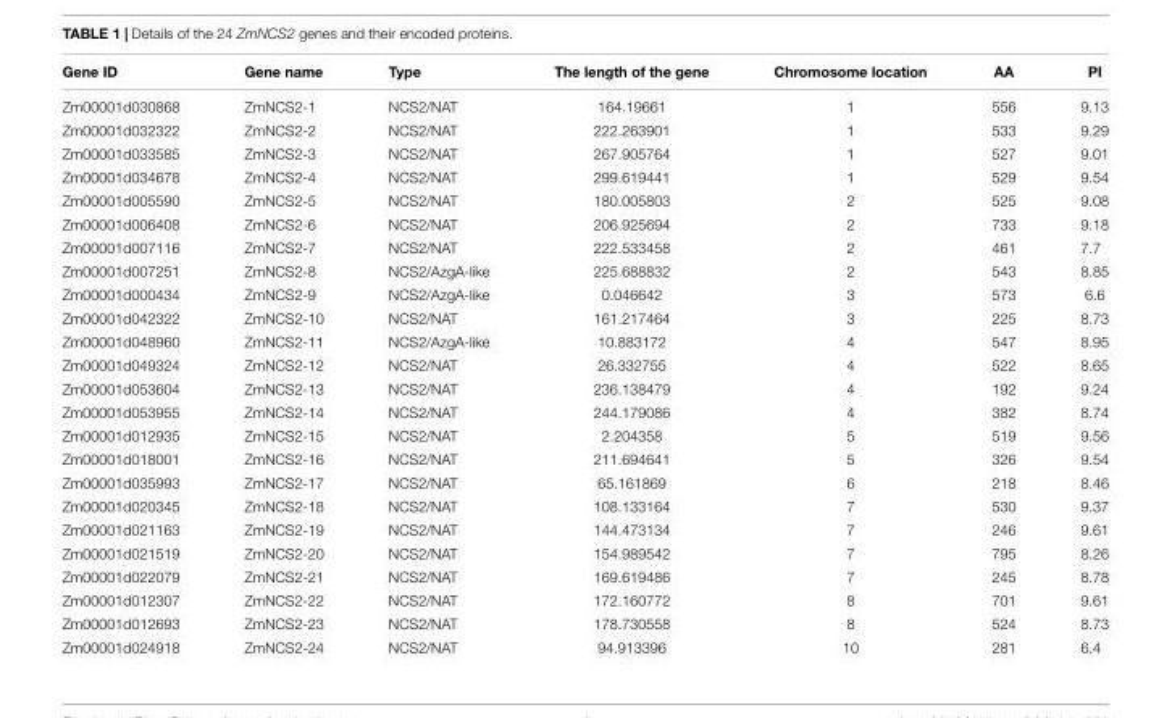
<table><thead><tr><td>Gene ID</td><td>Gene name</td><td>Type</td><td>The length of the gene</td><td>Chromosome location</td><td>AA</td><td>PI</td></tr></thead><tbody><tr><td>Zm00001d030868</td><td>ZmNCS2-1</td><td>NCS2/NAT</td><td>164.19661</td><td>1</td><td>556</td><td>9.13</td></tr><tr><td>Zm00001d032322</td><td>ZmNCS2-2</td><td>NCS2/NAT</td><td>222.263901</td><td>1</td><td>533</td><td>9.29</td></tr><tr><td>Zm00001d033585</td><td>ZmNCS2-3</td><td>NCS2/NAT</td><td>267.905764</td><td>1</td><td>527</td><td>9.01</td></tr><tr><td>Zm00001d034678</td><td>ZmNCS2-4</td><td>NCS2/NAT</td><td>299.619441</td><td>1</td><td>529</td><td>9.54</td></tr><tr><td>Zm00001d005590</td><td>ZmNCS2-5</td><td>NCS2/NAT</td><td>180.005803</td><td>2</td><td>525</td><td>9.08</td></tr><tr><td>Zm00001d006408</td><td>ZmNCS2-6</td><td>NCS2/NAT</td><td>206.925694</td><td>2</td><td>733</td><td>9.18</td></tr><tr><td>Zm00001d007116</td><td>ZmNCS2-7</td><td>NCS2/NAT</td><td>222.533458</td><td>2</td><td>461</td><td>7.7</td></tr><tr><td>Zm00001d007251</td><td>ZmNCS2-8</td><td>NCS2/AzgA-like</td><td>225.688832</td><td>2</td><td>543</td><td>8.85</td></tr><tr><td>Zm00001d000434</td><td>ZmNCS2-9</td><td>NCS2/AzgA-like</td><td>0.046642</td><td>3</td><td>573</td><td>6.6</td></tr><tr><td>Zm00001d042322</td><td>ZmNCS2-10</td><td>NCS2/NAT</td><td>161.217464</td><td>3</td><td>225</td><td>8.73</td></tr><tr><td>Zm00001d048960</td><td>ZmNCS2-11</td><td>NCS2/AzgA-like</td><td>10.883172</td><td>4</td><td>547</td><td>8.95</td></tr><tr><td>Zm00001d049324</td><td>ZmNCS2-12</td><td>NCS2/NAT</td><td>26.332755</td><td>4</td><td>522</td><td>8.65</td></tr><tr><td>Zm00001d053604</td><td>ZmNCS2-13</td><td>NCS2/NAT</td><td>236.138479</td><td>4</td><td>192</td><td>9.24</td></tr><tr><td>Zm00001d053955</td><td>ZmNCS2-14</td><td>NCS2/NAT</td><td>244.179086</td><td>4</td><td>382</td><td>8.74</td></tr><tr><td>Zm00001d012935</td><td>ZmNCS2-15</td><td>NCS2/NAT</td><td>2.204358</td><td>5</td><td>519</td><td>9.56</td></tr><tr><td>Zm00001d018001</td><td>ZmNCS2-16</td><td>NCS2/NAT</td><td>211.694641</td><td>5</td><td>326</td><td>9.54</td></tr><tr><td>Zm00001d035993</td><td>ZmNCS2-17</td><td>NCS2/NAT</td><td>65.161869</td><td>6</td><td>218</td><td>8.46</td></tr><tr><td>Zm00001d020345</td><td>ZmNCS2-18</td><td>NCS2/NAT</td><td>108.133164</td><td>7</td><td>530</td><td>9.37</td></tr><tr><td>Zm00001d021163</td><td>ZmNCS2-19</td><td>NCS2/NAT</td><td>144.473134</td><td>7</td><td>246</td><td>9.61</td></tr><tr><td>Zm00001d021519</td><td>ZmNCS2-20</td><td>NCS2/NAT</td><td>154.989542</td><td>7</td><td>795</td><td>8.26</td></tr><tr><td>Zm00001d022079</td><td>ZmNCS2-21</td><td>NCS2/NAT</td><td>169.619486</td><td>7</td><td>245</td><td>8.78</td></tr><tr><td>Zm00001d012307</td><td>ZmNCS2-22</td><td>NCS2/NAT</td><td>172.160772</td><td>8</td><td>701</td><td>9.61</td></tr><tr><td>Zm00001d012693</td><td>ZmNCS2-23</td><td>NCS2/NAT</td><td>178.730558</td><td>8</td><td>524</td><td>8.73</td></tr><tr><td>Zm00001d024918</td><td>ZmNCS2-24</td><td>NCS2/NAT</td><td>94.913396</td><td>10</td><td>281</td><td>6.4</td></tr></tbody></table>